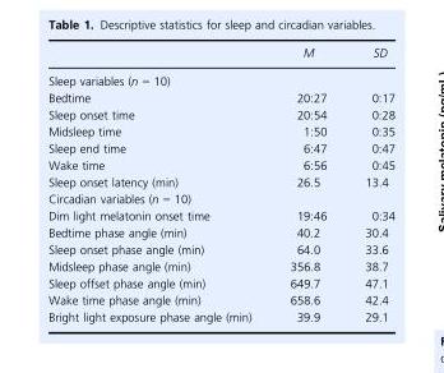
<table><thead><tr><td></td><td>M</td><td>SD</td></tr></thead><tbody><tr><td colspan="3">Sleep variables (n = 10)</td></tr><tr><td>Bedtime</td><td>20:27</td><td>0:17</td></tr><tr><td>Sleep onset time</td><td>20:54</td><td>0:28</td></tr><tr><td>Midsleep time</td><td>1:50</td><td>0:35</td></tr><tr><td>Sleep end time</td><td>6:47</td><td>0:47</td></tr><tr><td>Wake time</td><td>6:56</td><td>0:45</td></tr><tr><td>Sleep onset latency (min)</td><td>26.5</td><td>13.4</td></tr><tr><td colspan="3">Circadian variables (n = 10)</td></tr><tr><td>Dim light melatonin onset time</td><td>19:46</td><td>0:34</td></tr><tr><td>Bedtime phase angle (min)</td><td>40.2</td><td>30.4</td></tr><tr><td>Sleep onset phase angle (min)</td><td>64.0</td><td>33.6</td></tr><tr><td>Midsleep phase angle (min)</td><td>356.8</td><td>38.7</td></tr><tr><td>Sleep offset phase angle (min)</td><td>649.7</td><td>47.1</td></tr><tr><td>Wake time phase angle (min)</td><td>658.6</td><td>42.4</td></tr><tr><td>Bright light exposure phase angle (min)</td><td>39.9</td><td>29.1</td></tr></tbody></table>